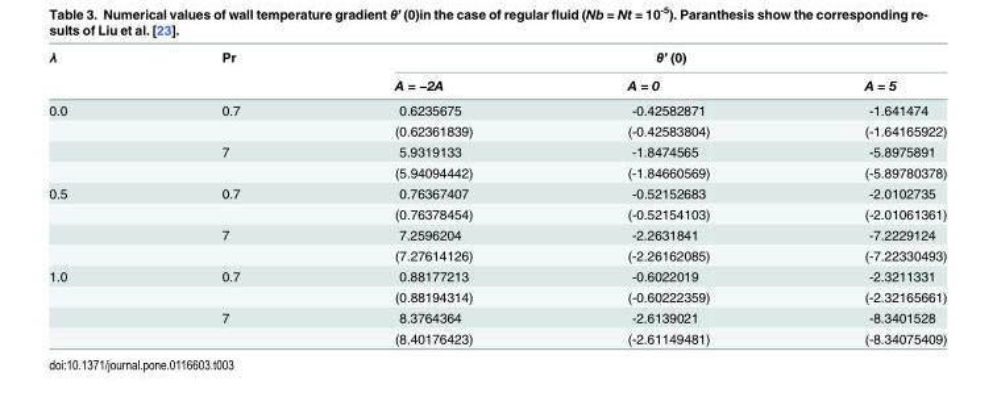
<table><thead><tr><td rowspan="2">λ</td><td rowspan="2">Pr</td><td colspan="3">θ’ (0)</td></tr><tr><td>A = −2A</td><td>A = 0</td><td>A = 5</td></tr></thead><tbody><tr><td rowspan="4">0.0</td><td>0.7</td><td>0.6235675</td><td>-0.42582871</td><td>-1.641474</td></tr><tr><td></td><td>(0.62361839)</td><td>(-0.42583804)</td><td>(-1.64165922)</td></tr><tr><td>7</td><td>5.9319133</td><td>-1.8474565</td><td>-5.8975891</td></tr><tr><td></td><td>(5.94094442)</td><td>(-1.84660569)</td><td>(-5.89780378)</td></tr><tr><td rowspan="4">0.5</td><td>0.7</td><td>0.76367407</td><td>-0.52152683</td><td>-2.0102735</td></tr><tr><td></td><td>(0.76378454)</td><td>(-0.52154103)</td><td>(-2.01061361)</td></tr><tr><td>7</td><td>7.2596204</td><td>-2.2631841</td><td>-7.2229124</td></tr><tr><td></td><td>(7.27614126)</td><td>(-2.26162085)</td><td>(-7.22330493)</td></tr><tr><td rowspan="4">1.0</td><td>0.7</td><td>0.88177213</td><td>-0.6022019</td><td>-2.3211331</td></tr><tr><td></td><td>(0.88194314)</td><td>(-0.60222359)</td><td>(-2.32165661)</td></tr><tr><td>7</td><td>8.3764364</td><td>-2.6139021</td><td>-8.3401528</td></tr><tr><td></td><td>(8.40176423)</td><td>(-2.61149481)</td><td>(-8.34075409)</td></tr></tbody></table>